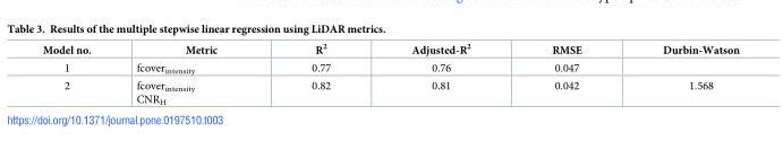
<table><thead><tr><td>Model no.</td><td>Metric</td><td>R<sup>2</sup></td><td>Adjusted-R<sup>2</sup></td><td>RMSE</td><td>Durbin-Watson</td></tr></thead><tbody><tr><td>1</td><td>fcover<sub>intensity</sub></td><td>0.77</td><td>0.76</td><td>0.047</td><td></td></tr><tr><td>2</td><td>fcover<sub>intensity</sub> CNR<sub>H</sub></td><td>0.82</td><td>0.81</td><td>0.042</td><td>1.568</td></tr></tbody></table>